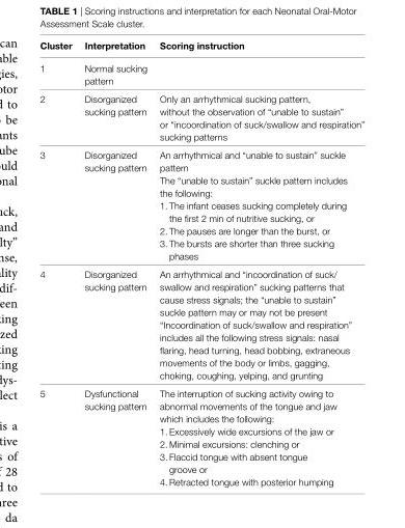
<table><thead><tr><td>cluster</td><td>interpretation</td><td>scoring instruction</td></tr></thead><tbody><tr><td>1</td><td>Normal sucking pattern</td><td></td></tr><tr><td>2</td><td>Disorganized sucking pattern</td><td>Only an arrhythmical sucking pattern, without the observation of “unable to sustain” or “incoordination of suck/swallow and respiration” sucking patterns</td></tr><tr><td>3</td><td>Disorganized sucking pattern</td><td>An arrhythmical and “unable to sustain” suckle pattern The “unable to sustain” suckle pattern includes the following: 1. The infant ceases sucking completely during the first 2 min of nutritive sucking, or 2. The pauses are longer than the burst, or 3. The bursts are shorter than three sucking phases</td></tr><tr><td>4</td><td>Disorganized sucking pattern</td><td>An arrhythmical and “incoordination of suck/ swallow and respiration” sucking patterns that cause stress signals; the “unable to sustain” suckle pattern may or may not be present “Incoordination of suck/swallow and respiration” includes all the following stress signals: nasal flaring, head turning, head bobbing, extraneous movements of the body or limbs, gagging, choking, coughing, yelping, and grunting</td></tr><tr><td>5</td><td>Dysfunctional sucking pattern</td><td>The interruption of sucking activity owing to abnormal movements of the tongue and jaw which includes the following: 1. Excessively wide excursions of the jaw or 2. Minimal excursions: clenching or 3. Flaccid tongue with absent tongue groove or 4. Retracted tongue with posterior humping</td></tr></tbody></table>